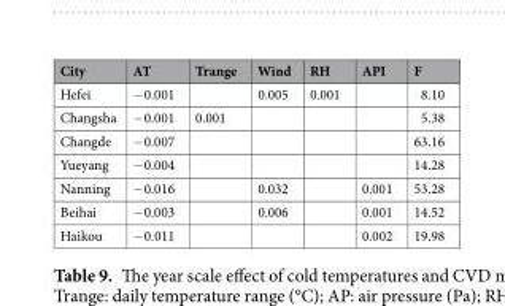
<table><thead><tr><td>City</td><td>AT</td><td>Trange</td><td>Wind</td><td>RH</td><td>API</td><td>F</td></tr></thead><tbody><tr><td>Hefei</td><td>−0.001</td><td></td><td>0.005</td><td>0.001</td><td></td><td>8.10</td></tr><tr><td>Changsha</td><td>−0.001</td><td>0.001</td><td></td><td></td><td></td><td>5.38</td></tr><tr><td>Changde</td><td>−0.007</td><td></td><td></td><td></td><td></td><td>63.16</td></tr><tr><td>Yueyang</td><td>−0.004</td><td></td><td></td><td></td><td></td><td>14.28</td></tr><tr><td>Nanning</td><td>−0.016</td><td></td><td>0.032</td><td></td><td>0.001</td><td>53.28</td></tr><tr><td>Beihai</td><td>−0.003</td><td></td><td>0.006</td><td></td><td>0.001</td><td>14.52</td></tr><tr><td>Haikou</td><td>−0.011</td><td></td><td></td><td></td><td>0.002</td><td>19.98</td></tr></tbody></table>